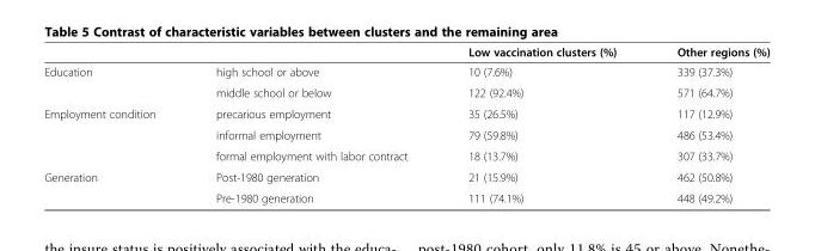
<table><thead><tr><td></td><td></td><td>Low vaccination clusters (%)</td><td>Other regions (%)</td></tr></thead><tbody><tr><td rowspan="2">Education</td><td>high school or above</td><td>10 (7.6%)</td><td>339 (37.3%)</td></tr><tr><td>middle school or below</td><td>122 (92.4%)</td><td>571 (64.7%)</td></tr><tr><td rowspan="3">Employment condition</td><td>precarious employment</td><td>35 (26.5%)</td><td>117 (12.9%)</td></tr><tr><td>informal employment</td><td>79 (59.8%)</td><td>486 (53.4%)</td></tr><tr><td>formal employment with labor contract</td><td>18 (13.7%)</td><td>307 (33.7%)</td></tr><tr><td rowspan="2">Generation</td><td>Post-1980 generation</td><td>21 (15.9%)</td><td>462 (50.8%)</td></tr><tr><td>Pre-1980 generation</td><td>111 (74.1%)</td><td>448 (49.2%)</td></tr></tbody></table>